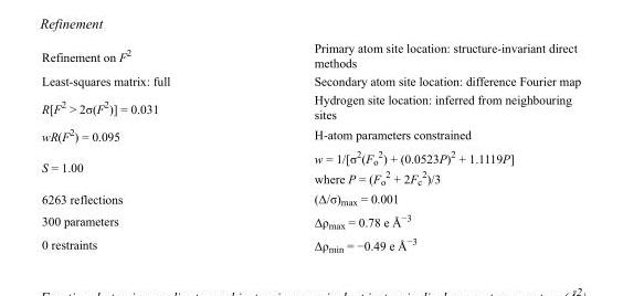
<table><tbody><tr><td>Refinement on F<sup>2</sup></td><td>Primary atom site location: structure-invariant direct methods</td></tr><tr><td>Least-squares matrix: full</td><td>Secondary atom site location: difference Fourier map</td></tr><tr><td>R[F<sup>2</sup> &gt; 2σ(F<sup>2</sup>)] = 0.031</td><td>Hydrogen site location: inferred from neighbouring sites</td></tr><tr><td>wR(F<sup>2</sup>) = 0.095</td><td>H-atom parameters constrained</td></tr><tr><td>S = 1.00</td><td>w = 1/[σ<sup>2</sup>(F<sub>o</sub> <sup>2</sup>) + (0.0523P)<sup>2</sup> + 1.1119P] where P = (F<sub>o</sub> <sup>2</sup> + 2F<sub>c</sub> <sup>2</sup>)/3</td></tr><tr><td>6263 reflections</td><td>(Δ/σ)<sub>max</sub> = 0.001</td></tr><tr><td>300 parameters</td><td>Δρ<sub>max</sub> = 0.78 e Å<sup>−3</sup></td></tr><tr><td>0 restraints</td><td>Δρ<sub>min</sub> = −0.49 e Å<sup>−3</sup></td></tr></tbody></table>